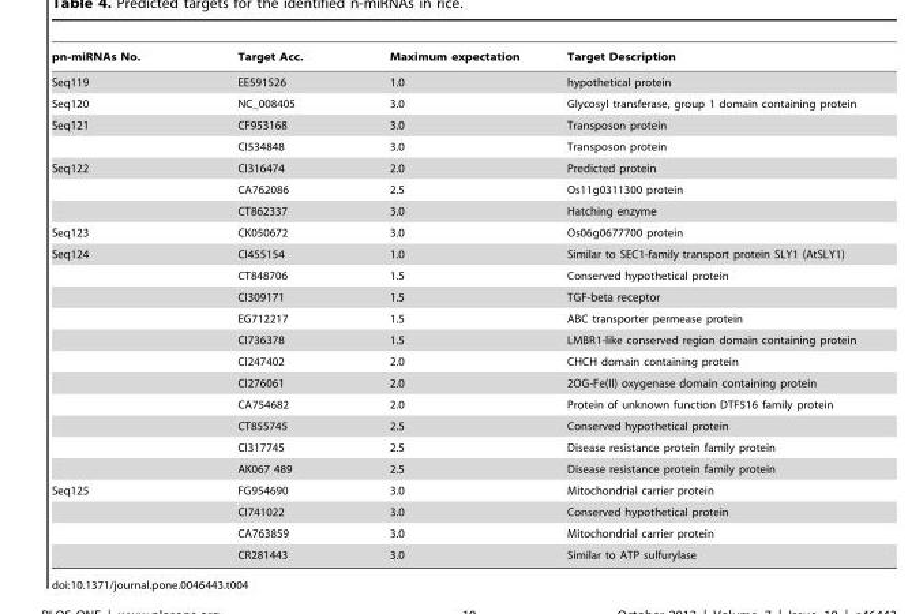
<table><thead><tr><td>pn-miRNAs No.</td><td>Target Acc.</td><td>Maximum expectation</td><td>Target Description</td></tr></thead><tbody><tr><td>Seq119</td><td>EE591526</td><td>1.0</td><td>hypothetical protein</td></tr><tr><td>Seq120</td><td>NC_008405</td><td>3.0</td><td>Glycosyl transferase, group 1 domain containing protein</td></tr><tr><td rowspan="2">Seq121</td><td>CF953168</td><td>3.0</td><td>Transposon protein</td></tr><tr><td>CI534848</td><td>3.0</td><td>Transposon protein</td></tr><tr><td rowspan="3">Seq122</td><td>CI316474</td><td>2.0</td><td>Predicted protein</td></tr><tr><td>CA762086</td><td>2.5</td><td>Os11g0311300 protein</td></tr><tr><td>CT862337</td><td>3.0</td><td>Hatching enzyme</td></tr><tr><td>Seq123</td><td>CK050672</td><td>3.0</td><td>Os06g0677700 protein</td></tr><tr><td rowspan="11">Seq124</td><td>CI455154</td><td>1.0</td><td>Similar to SEC1-family transport protein SLY1 (AtSLY1)</td></tr><tr><td>CT848706</td><td>1.5</td><td>Conserved hypothetical protein</td></tr><tr><td>CI309171</td><td>1.5</td><td>TGF-beta receptor</td></tr><tr><td>EG712217</td><td>1.5</td><td>ABC transporter permease protein</td></tr><tr><td>CI736378</td><td>1.5</td><td>LMBR1-like conserved region domain containing protein</td></tr><tr><td>CI247402</td><td>2.0</td><td>CHCH domain containing protein</td></tr><tr><td>CI276061</td><td>2.0</td><td>2OG-Fe(II) oxygenase domain containing protein</td></tr><tr><td>CA754682</td><td>2.0</td><td>Protein of unknown function DTF516 family protein</td></tr><tr><td>CT855745</td><td>2.5</td><td>Conserved hypothetical protein</td></tr><tr><td>CI317745</td><td>2.5</td><td>Disease resistance protein family protein</td></tr><tr><td>AK067 489</td><td>2.5</td><td>Disease resistance protein family protein</td></tr><tr><td rowspan="4">Seq125</td><td>FG954690</td><td>3.0</td><td>Mitochondrial carrier protein</td></tr><tr><td>CI741022</td><td>3.0</td><td>Conserved hypothetical protein</td></tr><tr><td>CA763859</td><td>3.0</td><td>Mitochondrial carrier protein</td></tr><tr><td>CR281443</td><td>3.0</td><td>Similar to ATP sulfurylase</td></tr></tbody></table>